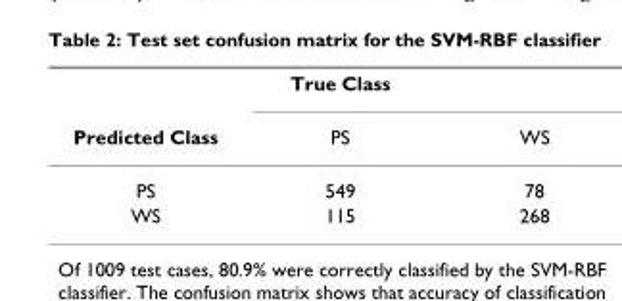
<table><thead><tr><td rowspan="2">Predicted Class</td><td rowspan="2">True Class PS</td><td rowspan="2">WS</td></tr><tr></tr></thead><tbody><tr><td>PS</td><td>549</td><td>78</td></tr><tr><td>WS</td><td>115</td><td>268</td></tr></tbody></table>